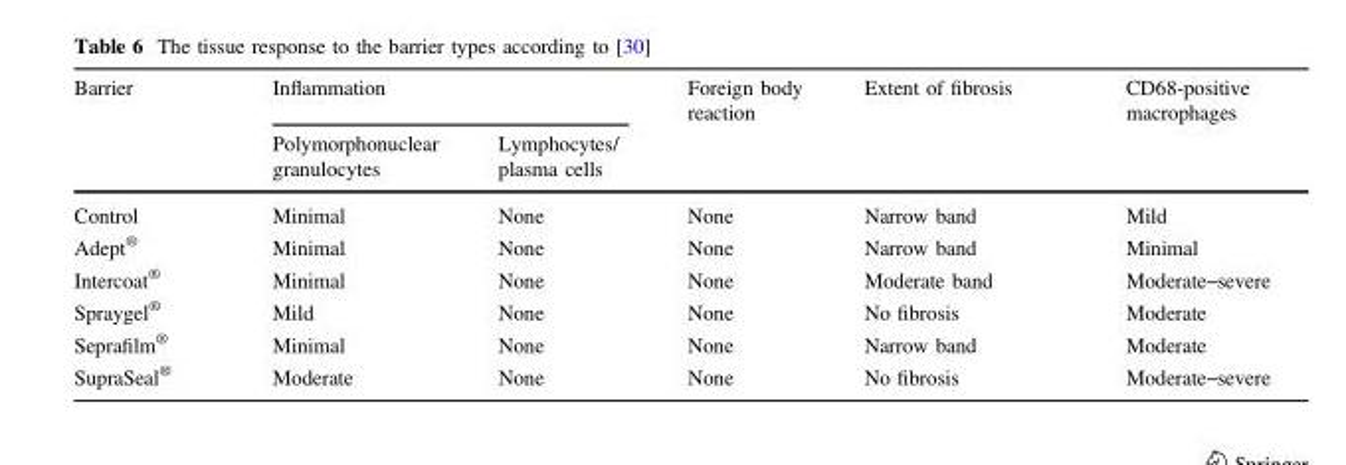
<table><thead><tr><td rowspan="2">Barrier</td><td colspan="2">Inflammation</td><td rowspan="2">Foreign body reaction</td><td rowspan="2">Extent of fibrosis</td><td rowspan="2">CD68-positive macrophages</td></tr><tr><td>Polymorphonuclear granulocytes</td><td>Lymphocytes/ plasma cells</td></tr></thead><tbody><tr><td>Control</td><td>Minimal</td><td>None</td><td>None</td><td>Narrow band</td><td>Mild</td></tr><tr><td>Adept<sup>®</sup></td><td>Minimal</td><td>None</td><td>None</td><td>Narrow band</td><td>Minimal</td></tr><tr><td>Intercoat<sup>®</sup></td><td>Minimal</td><td>None</td><td>None</td><td>Moderate band</td><td>Moderate–severe</td></tr><tr><td>Spraygel<sup>®</sup></td><td>Mild</td><td>None</td><td>None</td><td>No fibrosis</td><td>Moderate</td></tr><tr><td>Seprafilm<sup>®</sup></td><td>Minimal</td><td>None</td><td>None</td><td>Narrow band</td><td>Moderate</td></tr><tr><td>SupraSeal<sup>®</sup></td><td>Moderate</td><td>None</td><td>None</td><td>No fibrosis</td><td>Moderate–severe</td></tr></tbody></table>